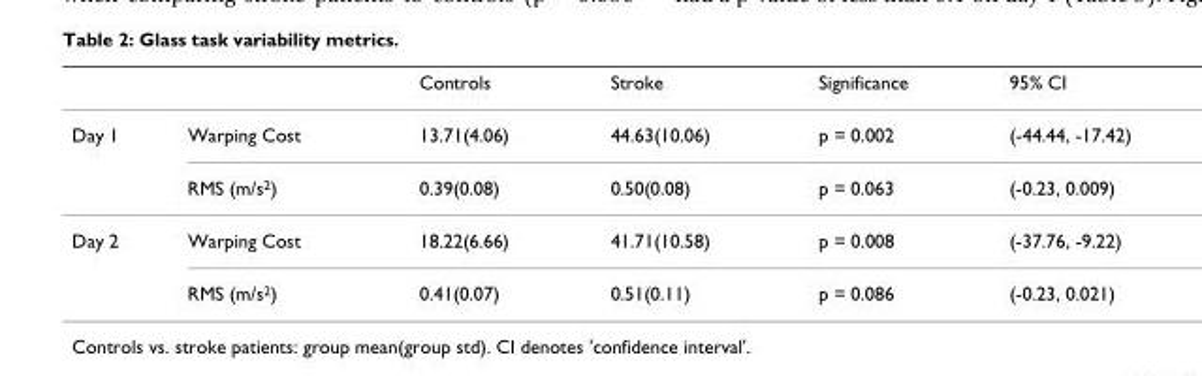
<table><thead><tr><td></td><td></td><td>Controls</td><td>Stroke</td><td>Significance</td><td>95% CI</td></tr></thead><tbody><tr><td rowspan="2">Day 1</td><td>Warping Cost</td><td>13.71(4.06)</td><td>44.63(10.06)</td><td>p = 0.002</td><td>(-44.44, -17.42)</td></tr><tr><td>RMS (m/s<sup>2</sup>)</td><td>0.39(0.08)</td><td>0.50(0.08)</td><td>p = 0.063</td><td>(-0.23, 0.009)</td></tr><tr><td rowspan="2">Day 2</td><td>Warping Cost</td><td>18.22(6.66)</td><td>41.71(10.58)</td><td>p = 0.008</td><td>(-37.76, -9.22)</td></tr><tr><td>RMS (m/s<sup>2</sup>)</td><td>0.41(0.07)</td><td>0.51(0.11)</td><td>p = 0.086</td><td>(-0.23, 0.021)</td></tr></tbody></table>